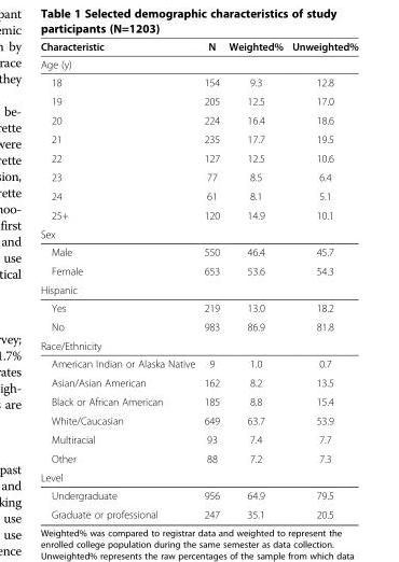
<table><thead><tr><td rowspan="2">Characteristic Age (y)</td><td rowspan="2">N</td><td rowspan="2">Weighted%</td><td rowspan="2">Unweighted%</td></tr><tr></tr></thead><tbody><tr><td>18</td><td>154</td><td>9.3</td><td>12.8</td></tr><tr><td>19</td><td>205</td><td>12.5</td><td>17.0</td></tr><tr><td>20</td><td>224</td><td>16.4</td><td>18.6</td></tr><tr><td>21</td><td>235</td><td>17.7</td><td>19.5</td></tr><tr><td>22</td><td>127</td><td>12.5</td><td>10.6</td></tr><tr><td>23</td><td>77</td><td>8.5</td><td>6.4</td></tr><tr><td>24</td><td>61</td><td>8.1</td><td>5.1</td></tr><tr><td>25+</td><td>120</td><td>14.9</td><td>10.1</td></tr><tr><td colspan="4">Sex</td></tr><tr><td>Male</td><td>550</td><td>46.4</td><td>45.7</td></tr><tr><td>Female</td><td>653</td><td>53.6</td><td>54.3</td></tr><tr><td colspan="4">Hispanic</td></tr><tr><td>Yes</td><td>219</td><td>13.0</td><td>18.2</td></tr><tr><td>No</td><td>983</td><td>86.9</td><td>81.8</td></tr><tr><td colspan="4">Race/Ethnicity</td></tr><tr><td>American Indian or Alaska Native</td><td>9</td><td>1.0</td><td>0.7</td></tr><tr><td>Asian/Asian American</td><td>162</td><td>8.2</td><td>13.5</td></tr><tr><td>Black or African American</td><td>185</td><td>8.8</td><td>15.4</td></tr><tr><td>White/Caucasian</td><td>649</td><td>63.7</td><td>53.9</td></tr><tr><td>Multiracial</td><td>93</td><td>7.4</td><td>7.7</td></tr><tr><td>Other</td><td>88</td><td>7.2</td><td>7.3</td></tr><tr><td colspan="4">Level</td></tr><tr><td>Undergraduate</td><td>956</td><td>64.9</td><td>79.5</td></tr><tr><td>Graduate or professional</td><td>247</td><td>35.1</td><td>20.5</td></tr></tbody></table>